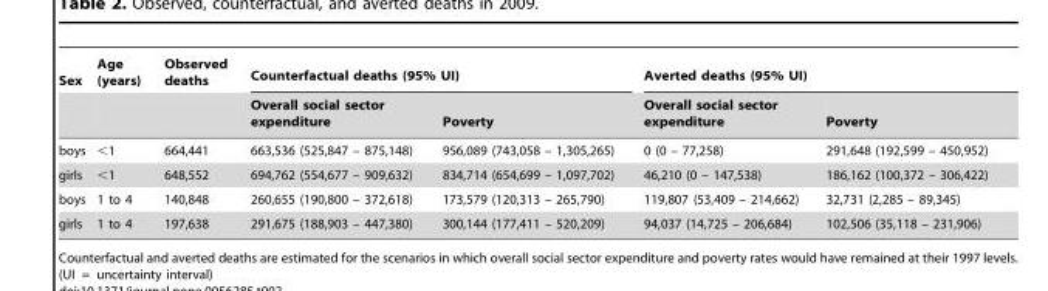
<table><thead><tr><td rowspan="2">Sex</td><td rowspan="2">Age (years)</td><td rowspan="2">Observed deaths</td><td colspan="2">Counterfactual deaths (95% UI)</td><td colspan="2">Averted deaths (95% UI)</td></tr><tr><td>Overall social sector expenditure</td><td>Poverty</td><td>Overall social sector expenditure</td><td>Poverty</td></tr></thead><tbody><tr><td>boys</td><td>&lt;1</td><td>664,441</td><td>663,536 (525,847 – 875,148)</td><td>956,089 (743,058 – 1,305,265)</td><td>0 (0 – 77,258)</td><td>291,648 (192,599 – 450,952)</td></tr><tr><td>girls</td><td>&lt;1</td><td>648,552</td><td>694,762 (554,677 – 909,632)</td><td>834,714 (654,699 – 1,097,702)</td><td>46,210 (0 – 147,538)</td><td>186,162 (100,372 – 306,422)</td></tr><tr><td>boys</td><td>1 to 4</td><td>140,848</td><td>260,655 (190,800 – 372,618)</td><td>173,579 (120,313 – 265,790)</td><td>119,807 (53,409 – 214,662)</td><td>32,731 (2,285 – 89,345)</td></tr><tr><td>girls</td><td>1 to 4</td><td>197,638</td><td>291,675 (188,903 – 447,380)</td><td>300,144 (177,411 – 520,209)</td><td>94,037 (14,725 – 206,684)</td><td>102,506 (35,118 – 231,906)</td></tr></tbody></table>